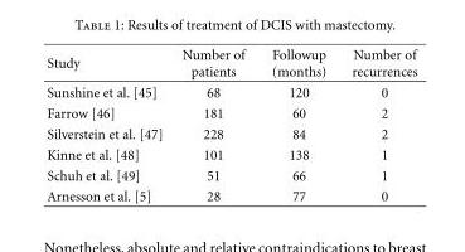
<table><thead><tr><td>Study</td><td>Number of patients</td><td>Followup (months)</td><td>Number of recurrences</td></tr></thead><tbody><tr><td>Sunshine et al. [45]</td><td>68</td><td>120</td><td>0</td></tr><tr><td>Farrow [46]</td><td>181</td><td>60</td><td>2</td></tr><tr><td>Silverstein et al. [47]</td><td>228</td><td>84</td><td>2</td></tr><tr><td>Kinne et al. [48]</td><td>101</td><td>138</td><td>1</td></tr><tr><td>Schuh et al. [49]</td><td>51</td><td>66</td><td>1</td></tr><tr><td>Arnesson et al. [5]</td><td>28</td><td>77</td><td>0</td></tr></tbody></table>